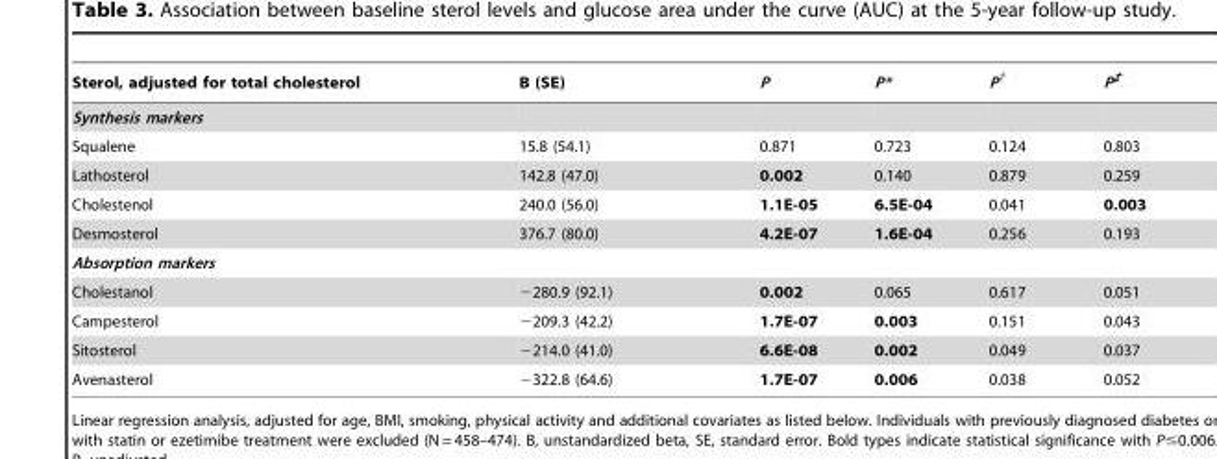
<table><thead><tr><td>Sterol, adjusted for total cholesterol</td><td>B (SE)</td><td>P</td><td>P*</td><td>P<sup>†</sup></td><td>P<sup>‡</sup></td></tr></thead><tbody><tr><td colspan="6">Synthesis markers</td></tr><tr><td>Squalene</td><td>15.8 (54.1)</td><td>0.871</td><td>0.723</td><td>0.124</td><td>0.803</td></tr><tr><td>Lathosterol</td><td>142.8 (47.0)</td><td>0.002</td><td>0.140</td><td>0.879</td><td>0.259</td></tr><tr><td>Cholestenol</td><td>240.0 (56.0)</td><td>1.1E-05</td><td>6.5E-04</td><td>0.041</td><td>0.003</td></tr><tr><td>Desmosterol</td><td>376.7 (80.0)</td><td>4.2E-07</td><td>1.6E-04</td><td>0.256</td><td>0.193</td></tr><tr><td colspan="6">Absorption markers</td></tr><tr><td>Cholestanol</td><td>−280.9 (92.1)</td><td>0.002</td><td>0.065</td><td>0.617</td><td>0.051</td></tr><tr><td>Campesterol</td><td>−209.3 (42.2)</td><td>1.7E-07</td><td>0.003</td><td>0.151</td><td>0.043</td></tr><tr><td>Sitosterol</td><td>−214.0 (41.0)</td><td>6.6E-08</td><td>0.002</td><td>0.049</td><td>0.037</td></tr><tr><td>Avenasterol</td><td>−322.8 (64.6)</td><td>1.7E-07</td><td>0.006</td><td>0.038</td><td>0.052</td></tr></tbody></table>